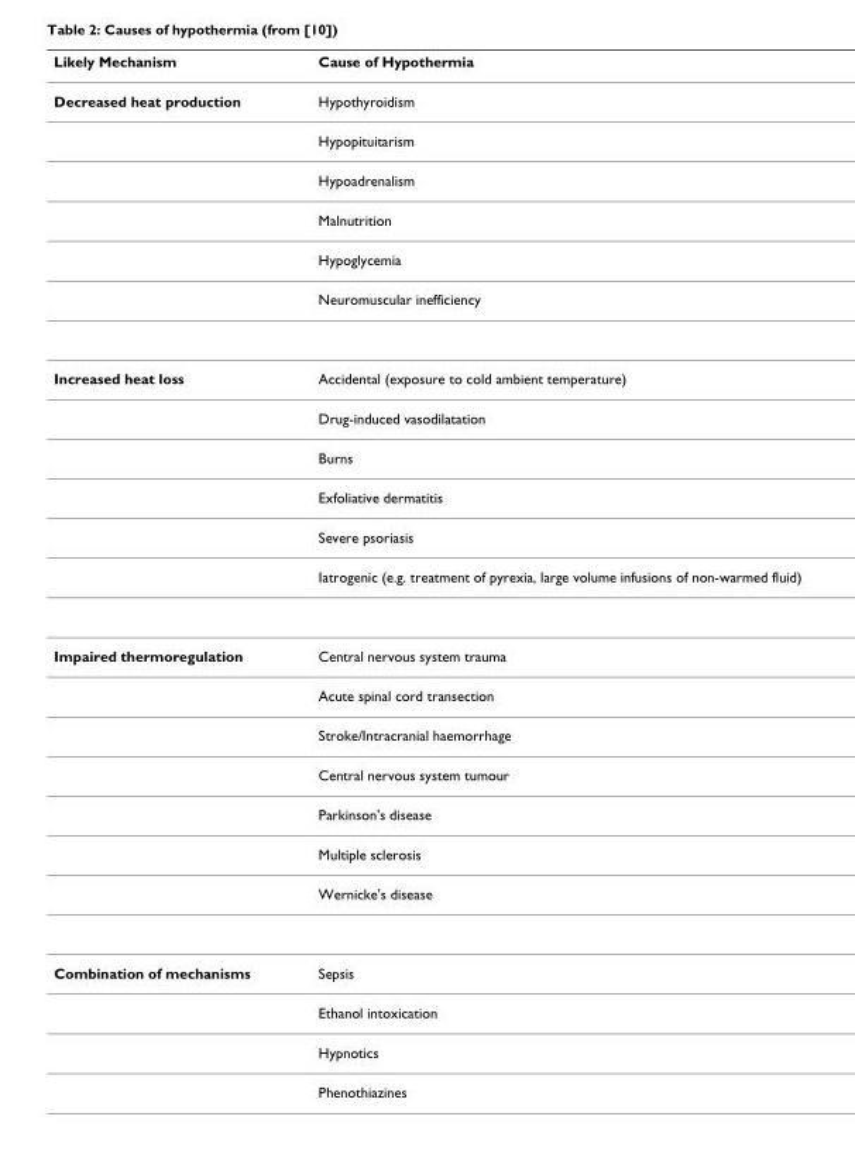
<table><thead><tr><td>Likely Mechanism</td><td>Cause of Hypothermia</td></tr></thead><tbody><tr><td rowspan="6">Decreased heat production</td><td>Hypothyroidism</td></tr><tr><td>Hypopituitarism</td></tr><tr><td>Hypoadrenalism</td></tr><tr><td>Malnutrition</td></tr><tr><td>Hypoglycemia</td></tr><tr><td>Neuromuscular inefficiency</td></tr><tr><td rowspan="6">Increased heat loss</td><td>Accidental (exposure to cold ambient temperature)</td></tr><tr><td>Drug-induced vasodilatation</td></tr><tr><td>Burns</td></tr><tr><td>Exfoliative dermatitis</td></tr><tr><td>Severe psoriasis</td></tr><tr><td>Iatrogenic (e.g. treatment of pyrexia, large volume infusions of non-warmed fluid)</td></tr><tr><td rowspan="7">Impaired thermoregulation</td><td>Central nervous system trauma</td></tr><tr><td>Acute spinal cord transection</td></tr><tr><td>Stroke/Intracranial haemorrhage</td></tr><tr><td>Central nervous system tumour</td></tr><tr><td>Parkinson&#x27;s disease</td></tr><tr><td>Multiple sclerosis</td></tr><tr><td>Wernicke&#x27;s disease</td></tr><tr><td rowspan="4">Combination of mechanisms</td><td>Sepsis</td></tr><tr><td>Ethanol intoxication</td></tr><tr><td>Hypnotics</td></tr><tr><td>Phenothiazines</td></tr></tbody></table>